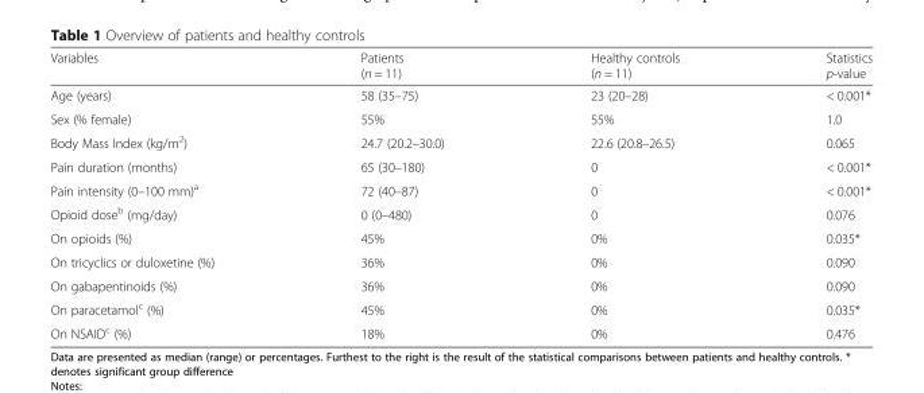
<table><thead><tr><td>Variables</td><td>Patients (n = 11)</td><td>Healthy controls (n = 11)</td><td>Statistics p-value</td></tr></thead><tbody><tr><td>Age (years)</td><td>58 (35–75)</td><td>23 (20–28)</td><td>&lt; 0.001*</td></tr><tr><td>Sex (% female)</td><td>55%</td><td>55%</td><td>1.0</td></tr><tr><td>Body Mass Index (kg/m<sup>2</sup>)</td><td>24.7 (20.2–30.0)</td><td>22.6 (20.8–26.5)</td><td>0.065</td></tr><tr><td>Pain duration (months)</td><td>65 (30–180)</td><td>0</td><td>&lt; 0.001*</td></tr><tr><td>Pain intensity (0–100 mm)<sup>a</sup></td><td>72 (40–87)</td><td>0</td><td>&lt; 0.001*</td></tr><tr><td>Opioid dose<sup>b</sup> (mg/day)</td><td>0 (0–480)</td><td>0</td><td>0.076</td></tr><tr><td>On opioids (%)</td><td>45%</td><td>0%</td><td>0.035*</td></tr><tr><td>On tricyclics or duloxetine (%)</td><td>36%</td><td>0%</td><td>0.090</td></tr><tr><td>On gabapentinoids (%)</td><td>36%</td><td>0%</td><td>0.090</td></tr><tr><td>On paracetamol<sup>c</sup> (%)</td><td>45%</td><td>0%</td><td>0.035*</td></tr><tr><td>On NSAID<sup>c</sup> (%)</td><td>18%</td><td>0%</td><td>0.476</td></tr></tbody></table>